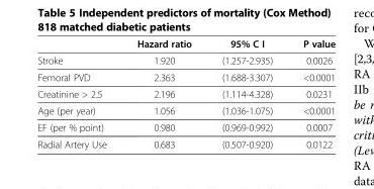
<table><thead><tr><td></td><td>Hazard ratio</td><td>95% C I</td><td>P value</td></tr></thead><tbody><tr><td>Stroke</td><td>1.920</td><td>(1.257-2.935)</td><td>0.0026</td></tr><tr><td>Femoral PVD</td><td>2.363</td><td>(1.688-3.307)</td><td>&lt;0.0001</td></tr><tr><td>Creatinine &gt; 2.5</td><td>2.196</td><td>(1.114-4.328)</td><td>0.0231</td></tr><tr><td>Age (per year)</td><td>1.056</td><td>(1.036-1.075)</td><td>&lt;0.0001</td></tr><tr><td>EF (per % point)</td><td>0.980</td><td>(0.969-0.992)</td><td>0.0007</td></tr><tr><td>Radial Artery Use</td><td>0.683</td><td>(0.507-0.920)</td><td>0.0122</td></tr></tbody></table>